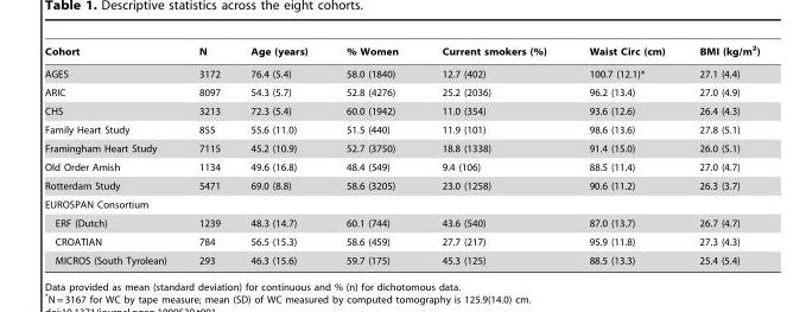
<table><thead><tr><td>Cohort</td><td>N</td><td>Age (years)</td><td>% Women</td><td>Current smokers (%)</td><td>Waist Circ (cm)</td><td>BMI (kg/m<sup>2</sup>)</td></tr></thead><tbody><tr><td>AGES</td><td>3172</td><td>76.4 (5.4)</td><td>58.0 (1840)</td><td>12.7 (402)</td><td>100.7 (12.1)*</td><td>27.1 (4.4)</td></tr><tr><td>ARIC</td><td>8097</td><td>54.3 (5.7)</td><td>52.8 (4276)</td><td>25.2 (2036)</td><td>96.2 (13.4)</td><td>27.0 (4.9)</td></tr><tr><td>CHS</td><td>3213</td><td>72.3 (5.4)</td><td>60.0 (1942)</td><td>11.0 (354)</td><td>93.6 (12.6)</td><td>26.4 (4.3)</td></tr><tr><td>Family Heart Study</td><td>855</td><td>55.6 (11.0)</td><td>51.5 (440)</td><td>11.9 (101)</td><td>98.6 (13.6)</td><td>27.8 (5.1)</td></tr><tr><td>Framingham Heart Study</td><td>7115</td><td>45.2 (10.9)</td><td>52.7 (3750)</td><td>18.8 (1338)</td><td>91.4 (15.0)</td><td>26.0 (5.1)</td></tr><tr><td>Old Order Amish</td><td>1134</td><td>49.6 (16.8)</td><td>48.4 (549)</td><td>9.4 (106)</td><td>88.5 (11.4)</td><td>27.0 (4.7)</td></tr><tr><td>Rotterdam Study</td><td>5471</td><td>69.0 (8.8)</td><td>58.6 (3205)</td><td>23.0 (1258)</td><td>90.6 (11.2)</td><td>26.3 (3.7)</td></tr><tr><td colspan="7">EUROSPAN Consortium</td></tr><tr><td>ERF (Dutch)</td><td>1239</td><td>48.3 (14.7)</td><td>60.1 (744)</td><td>43.6 (540)</td><td>87.0 (13.7)</td><td>26.7 (4.7)</td></tr><tr><td>CROATIAN</td><td>784</td><td>56.5 (15.3)</td><td>58.6 (459)</td><td>27.7 (217)</td><td>95.9 (11.8)</td><td>27.3 (4.3)</td></tr><tr><td>MICROS (South Tyrolean)</td><td>293</td><td>46.3 (15.6)</td><td>59.7 (175)</td><td>45.3 (125)</td><td>88.5 (13.3)</td><td>25.4 (5.4)</td></tr></tbody></table>